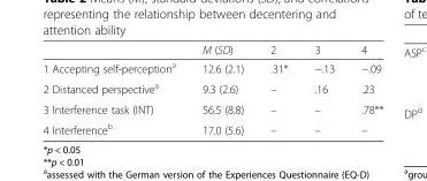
<table><thead><tr><td></td><td>M (SD)</td><td>2</td><td>3</td><td>4</td></tr></thead><tbody><tr><td>1 Accepting self-perception<sup>a</sup></td><td>12.6 (2.1)</td><td>.31*</td><td>−.13</td><td>−.09</td></tr><tr><td>2 Distanced perspective<sup>a</sup></td><td>9.3 (2.6)</td><td>–</td><td>.16</td><td>.23</td></tr><tr><td>3 Interference task (INT)</td><td>56.5 (8.8)</td><td>–</td><td>–</td><td>.78**</td></tr><tr><td>4 Interference<sup>b</sup></td><td>17.0 (5.6)</td><td>–</td><td>–</td><td>–</td></tr></tbody></table>